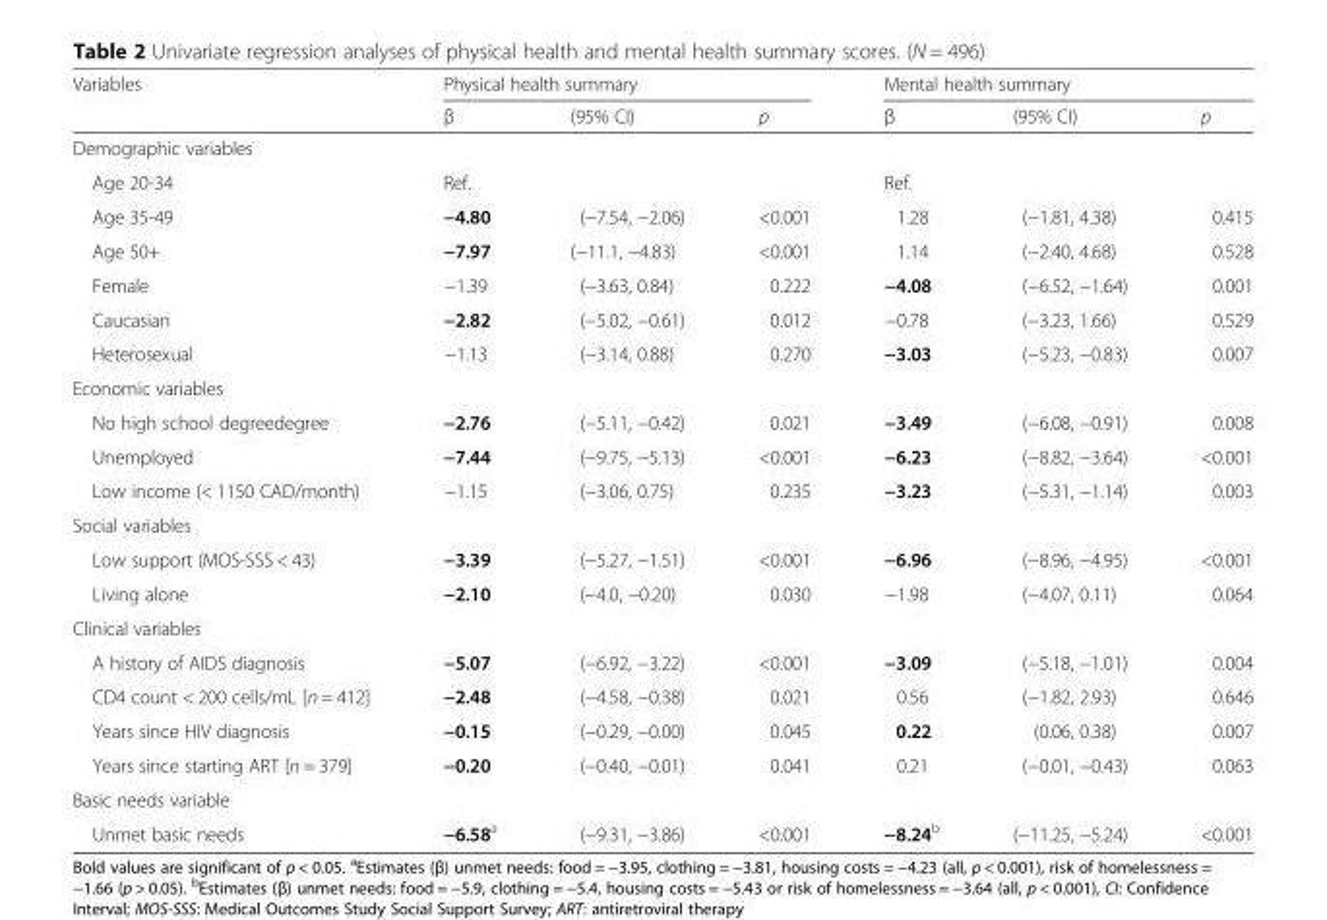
<table><thead><tr><td rowspan="2">Variables</td><td colspan="3">Physical health summary</td><td colspan="3">Mental health summary</td></tr><tr><td>β</td><td>(95% CI)</td><td>p</td><td>β</td><td>(95% CI)</td><td>p</td></tr></thead><tbody><tr><td colspan="7">Demographic variables</td></tr><tr><td>Age 20-34</td><td>Ref.</td><td></td><td></td><td>Ref.</td><td></td><td></td></tr><tr><td>Age 35-49</td><td>−4.80</td><td>(−7.54, −2.06)</td><td>&lt;0.001</td><td>1.28</td><td>(−1.81, 4.38)</td><td>0.415</td></tr><tr><td>Age 50+</td><td>−7.97</td><td>(−11.1, −4.83)</td><td>&lt;0.001</td><td>1.14</td><td>(−2.40, 4.68)</td><td>0.528</td></tr><tr><td>Female</td><td>−1.39</td><td>(−3.63, 0.84)</td><td>0.222</td><td>−4.08</td><td>(−6.52, −1.64)</td><td>0.001</td></tr><tr><td>Caucasian</td><td>−2.82</td><td>(−5.02, −0.61)</td><td>0.012</td><td>−0.78</td><td>(−3.23, 1.66)</td><td>0.529</td></tr><tr><td>Heterosexual</td><td>−1.13</td><td>(−3.14, 0.88)</td><td>0.270</td><td>−3.03</td><td>(−5.23, −0.83)</td><td>0.007</td></tr><tr><td colspan="7">Economic variables</td></tr><tr><td>No high school degreedegree</td><td>−2.76</td><td>(−5.11, −0.42)</td><td>0.021</td><td>−3.49</td><td>(−6.08, −0.91)</td><td>0.008</td></tr><tr><td>Unemployed</td><td>−7.44</td><td>(−9.75, −5.13)</td><td>&lt;0.001</td><td>−6.23</td><td>(−8.82, −3.64)</td><td>&lt;0.001</td></tr><tr><td>Low income (&lt; 1150 CAD/month)</td><td>−1.15</td><td>(−3.06, 0.75)</td><td>0.235</td><td>−3.23</td><td>(−5.31, −1.14)</td><td>0.003</td></tr><tr><td colspan="7">Social variables</td></tr><tr><td>Low support (MOS-SSS &lt; 43)</td><td>−3.39</td><td>(−5.27, −1.51)</td><td>&lt;0.001</td><td>−6.96</td><td>(−8.96, −4.95)</td><td>&lt;0.001</td></tr><tr><td>Living alone</td><td>−2.10</td><td>(−4.0, −0.20)</td><td>0.030</td><td>−1.98</td><td>(−4.07, 0.11)</td><td>0.064</td></tr><tr><td colspan="7">Clinical variables</td></tr><tr><td>A history of AIDS diagnosis</td><td>−5.07</td><td>(−6.92, −3.22)</td><td>&lt;0.001</td><td>−3.09</td><td>(−5.18, −1.01)</td><td>0.004</td></tr><tr><td>CD4 count &lt; 200 cells/mL [n = 412]</td><td>−2.48</td><td>(−4.58, −0.38)</td><td>0.021</td><td>0.56</td><td>(−1.82, 2.93)</td><td>0.646</td></tr><tr><td>Years since HIV diagnosis</td><td>−0.15</td><td>(−0.29, −0.00)</td><td>0.045</td><td>0.22</td><td>(0.06, 0.38)</td><td>0.007</td></tr><tr><td>Years since starting ART [n = 379]</td><td>−0.20</td><td>(−0.40, −0.01)</td><td>0.041</td><td>0.21</td><td>(−0.01, −0.43)</td><td>0.063</td></tr><tr><td colspan="7">Basic needs variable</td></tr><tr><td>Unmet basic needs</td><td>−6.58<sup>a</sup></td><td>(−9.31, −3.86)</td><td>&lt;0.001</td><td>−8.24<sup>b</sup></td><td>(−11.25, −5.24)</td><td>&lt;0.001</td></tr></tbody></table>